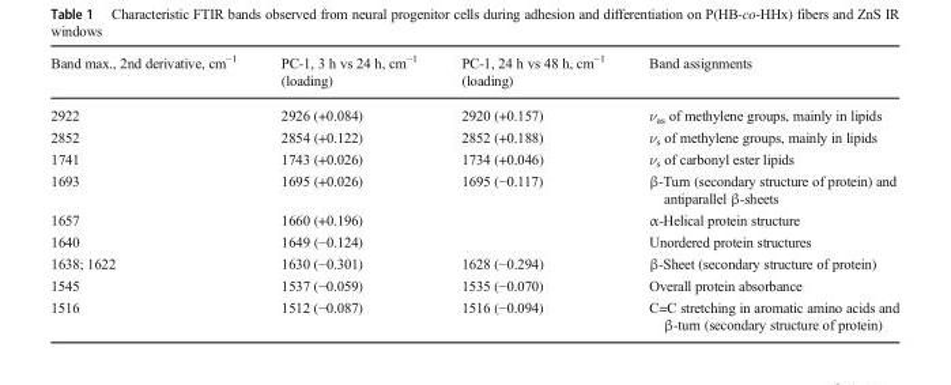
<table><thead><tr><td>Band max., 2nd derivative, cm<sup>−1</sup></td><td>PC-1, 3 h vs 24 h, cm<sup>−1</sup> (loading)</td><td>PC-1, 24 h vs 48 h, cm<sup>−1</sup> (loading)</td><td>Band assignments</td></tr></thead><tbody><tr><td>2922</td><td>2926 (+0.084)</td><td>2920 (+0.157)</td><td>ν<sub>as</sub> of methylene groups, mainly in lipids</td></tr><tr><td>2852</td><td>2854 (+0.122)</td><td>2852 (+0.188)</td><td>ν<sub>s</sub> of methylene groups, mainly in lipids</td></tr><tr><td>1741</td><td>1743 (+0.026)</td><td>1734 (+0.046)</td><td>ν<sub>s</sub> of carbonyl ester lipids</td></tr><tr><td>1693</td><td>1695 (+0.026)</td><td>1695 (−0.117)</td><td>β-Turn (secondary structure of protein) and antiparallel β-sheets</td></tr><tr><td>1657</td><td>1660 (+0.196)</td><td></td><td>α-Helical protein structure</td></tr><tr><td>1640</td><td>1649 (−0.124)</td><td></td><td>Unordered protein structures</td></tr><tr><td>1638; 1622</td><td>1630 (−0.301)</td><td>1628 (−0.294)</td><td>β-Sheet (secondary structure of protein)</td></tr><tr><td>1545</td><td>1537 (−0.059)</td><td>1535 (−0.070)</td><td>Overall protein absorbance</td></tr><tr><td>1516</td><td>1512 (−0.087)</td><td>1516 (−0.094)</td><td>C=C stretching in aromatic amino acids and β-turn (secondary structure of protein)</td></tr></tbody></table>